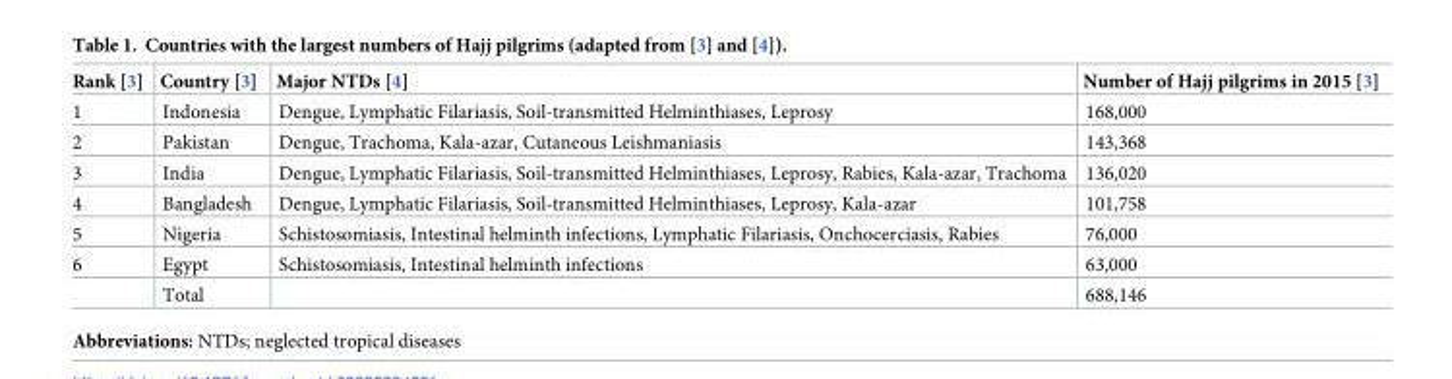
<table><thead><tr><td>Rank [3]</td><td>Country [3]</td><td>Major NTDs [4]</td><td>Number of Hajj pilgrims in 2015 [3]</td></tr></thead><tbody><tr><td>1</td><td>Indonesia</td><td>Dengue, Lymphatic Filariasis, Soil-transmitted Helminthiases, Leprosy</td><td>168,000</td></tr><tr><td>2</td><td>Pakistan</td><td>Dengue, Trachoma, Kala-azar, Cutaneous Leishmaniasis</td><td>143,368</td></tr><tr><td>3</td><td>India</td><td>Dengue, Lymphatic Filariasis, Soil-transmitted Helminthiases, Leprosy, Rabies, Kala-azar, Trachoma</td><td>136,020</td></tr><tr><td>4</td><td>Bangladesh</td><td>Dengue, Lymphatic Filariasis, Soil-transmitted Helminthiases, Leprosy, Kala-azar</td><td>101,758</td></tr><tr><td>5</td><td>Nigeria</td><td>Schistosomiasis, Intestinal helminth infections, Lymphatic Filariasis, Onchocerciasis, Rabies</td><td>76,000</td></tr><tr><td rowspan="2">6</td><td>Egypt</td><td>Schistosomiasis, Intestinal helminth infections</td><td>63,000</td></tr><tr><td>Total</td><td></td><td>688,146</td></tr></tbody></table>